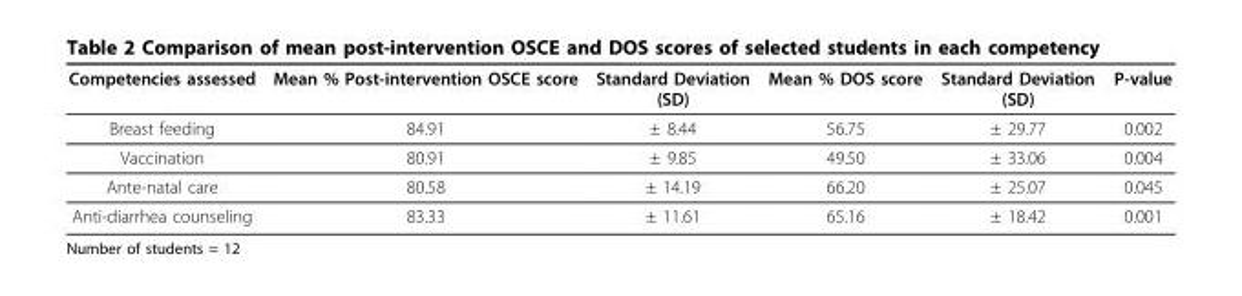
<table><thead><tr><td>Competencies assessed</td><td>Mean % Post-intervention OSCE score</td><td>Standard Deviation (SD)</td><td>Mean % DOS score</td><td>Standard Deviation (SD)</td><td>P-value</td></tr></thead><tbody><tr><td>Breast feeding</td><td>84.91</td><td>± 8.44</td><td>56.75</td><td>± 29.77</td><td>0.002</td></tr><tr><td>Vaccination</td><td>80.91</td><td>± 9.85</td><td>49.50</td><td>± 33.06</td><td>0.004</td></tr><tr><td>Ante-natal care</td><td>80.58</td><td>± 14.19</td><td>66.20</td><td>± 25.07</td><td>0.045</td></tr><tr><td>Anti-diarrhea counseling</td><td>83.33</td><td>± 11.61</td><td>65.16</td><td>± 18.42</td><td>0.001</td></tr></tbody></table>